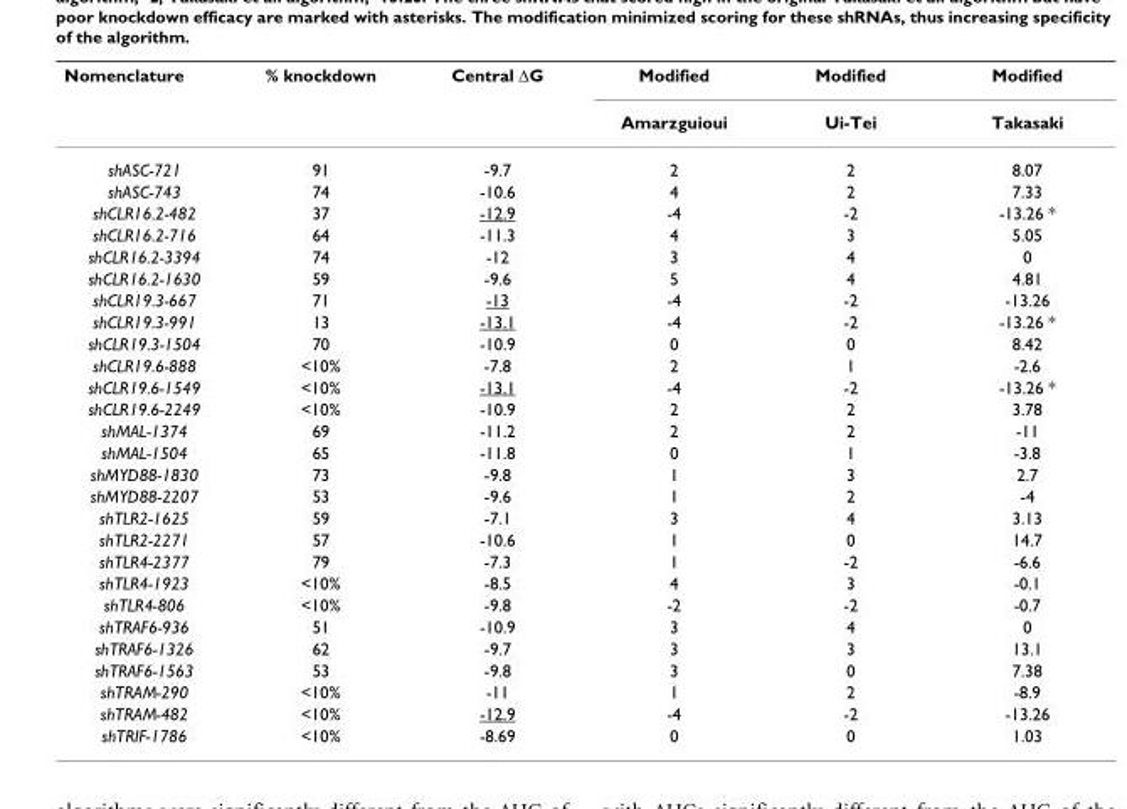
<table><thead><tr><td rowspan="2">Nomenclature</td><td rowspan="2">% knockdown</td><td rowspan="2">Central ∆G</td><td rowspan="2">Modified Amarzguioui</td><td rowspan="2">Modified Ui-Tei</td><td rowspan="2">Modified Takasaki</td></tr><tr></tr></thead><tbody><tr><td>shASC-721</td><td>91</td><td>-9.7</td><td>2</td><td>2</td><td>8.07</td></tr><tr><td>shASC-743</td><td>74</td><td>-10.6</td><td>4</td><td>2</td><td>7.33</td></tr><tr><td>shCLR16.2-482</td><td>37</td><td>-12.9</td><td>-4</td><td>-2</td><td>-13.26 *</td></tr><tr><td>shCLR16.2-716</td><td>64</td><td>-11.3</td><td>4</td><td>3</td><td>5.05</td></tr><tr><td>shCLR16.2-3394</td><td>74</td><td>-12</td><td>3</td><td>4</td><td>0</td></tr><tr><td>shCLR16.2-1630</td><td>59</td><td>-9.6</td><td>5</td><td>4</td><td>4.81</td></tr><tr><td>shCLR19.3-667</td><td>71</td><td>-13</td><td>-4</td><td>-2</td><td>-13.26</td></tr><tr><td>shCLR19.3-991</td><td>13</td><td>-13.1</td><td>-4</td><td>-2</td><td>-13.26 *</td></tr><tr><td>shCLR19.3-1504</td><td>70</td><td>-10.9</td><td>0</td><td>0</td><td>8.42</td></tr><tr><td>shCLR19.6-888</td><td>&lt;10%</td><td>-7.8</td><td>2</td><td>1</td><td>-2.6</td></tr><tr><td>shCLR19.6-1549</td><td>&lt;10%</td><td>-13.1</td><td>-4</td><td>-2</td><td>-13.26 *</td></tr><tr><td>shCLR19.6-2249</td><td>&lt;10%</td><td>-10.9</td><td>2</td><td>2</td><td>3.78</td></tr><tr><td>shMAL-1374</td><td>69</td><td>-11.2</td><td>2</td><td>2</td><td>-11</td></tr><tr><td>shMAL-1504</td><td>65</td><td>-11.8</td><td>0</td><td>1</td><td>-3.8</td></tr><tr><td>shMYD88-1830</td><td>73</td><td>-9.8</td><td>1</td><td>3</td><td>2.7</td></tr><tr><td>shMYD88-2207</td><td>53</td><td>-9.6</td><td>1</td><td>2</td><td>-4</td></tr><tr><td>shTLR2-1625</td><td>59</td><td>-7.1</td><td>3</td><td>4</td><td>3.13</td></tr><tr><td>shTLR2-2271</td><td>57</td><td>-10.6</td><td>1</td><td>0</td><td>14.7</td></tr><tr><td>shTLR4-2377</td><td>79</td><td>-7.3</td><td>1</td><td>-2</td><td>-6.6</td></tr><tr><td>shTLR4-1923</td><td>&lt;10%</td><td>-8.5</td><td>4</td><td>3</td><td>-0.1</td></tr><tr><td>shTLR4-806</td><td>&lt;10%</td><td>-9.8</td><td>-2</td><td>-2</td><td>-0.7</td></tr><tr><td>shTRAF6-936</td><td>51</td><td>-10.9</td><td>3</td><td>4</td><td>0</td></tr><tr><td>shTRAF6-1326</td><td>62</td><td>-9.7</td><td>3</td><td>3</td><td>13.1</td></tr><tr><td>shTRAF6-1563</td><td>53</td><td>-9.8</td><td>3</td><td>0</td><td>7.38</td></tr><tr><td>shTRAM-290</td><td>&lt;10%</td><td>-11</td><td>1</td><td>2</td><td>-8.9</td></tr><tr><td>shTRAM-482</td><td>&lt;10%</td><td>-12.9</td><td>-4</td><td>-2</td><td>-13.26</td></tr><tr><td>shTRIF-1786</td><td>&lt;10%</td><td>-8.69</td><td>0</td><td>0</td><td>1.03</td></tr></tbody></table>